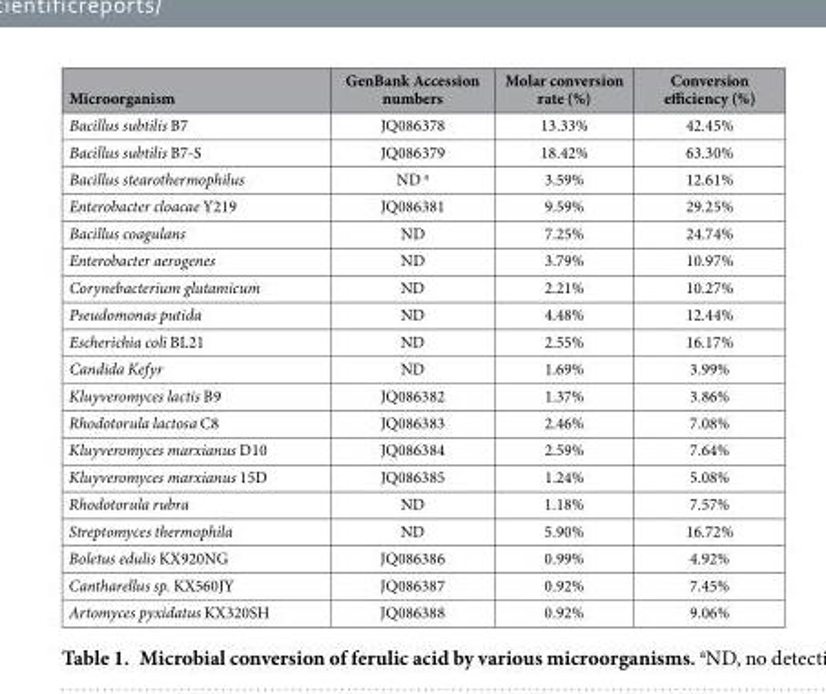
<table><thead><tr><td>Microorganism</td><td>GenBank Accession numbers</td><td>Molar conversion rate (%)</td><td>Conversion efficiency (%)</td></tr></thead><tbody><tr><td>Bacillus subtilis B7</td><td>JQ086378</td><td>13.33%</td><td>42.45%</td></tr><tr><td>Bacillus subtilis B7-S</td><td>JQ086379</td><td>18.42%</td><td>63.30%</td></tr><tr><td>Bacillus stearothermophilus</td><td>ND a</td><td>3.59%</td><td>12.61%</td></tr><tr><td>Enterobacter cloacae Y219</td><td>JQ086381</td><td>9.59%</td><td>29.25%</td></tr><tr><td>Bacillus coagulans</td><td>ND</td><td>7.25%</td><td>24.74%</td></tr><tr><td>Enterobacter aerogenes</td><td>ND</td><td>3.79%</td><td>10.97%</td></tr><tr><td>Corynebacterium glutamicum</td><td>ND</td><td>2.21%</td><td>10.27%</td></tr><tr><td>Pseudomonas putida</td><td>ND</td><td>4.48%</td><td>12.44%</td></tr><tr><td>Escherichia coli BL21</td><td>ND</td><td>2.55%</td><td>16.17%</td></tr><tr><td>Candida Kefyr</td><td>ND</td><td>1.69%</td><td>3.99%</td></tr><tr><td>Kluyveromyces lactis B9</td><td>JQ086382</td><td>1.37%</td><td>3.86%</td></tr><tr><td>Rhodotorula lactosa C8</td><td>JQ086383</td><td>2.46%</td><td>7.08%</td></tr><tr><td>Kluyveromyces marxianus D10</td><td>JQ086384</td><td>2.59%</td><td>7.64%</td></tr><tr><td>Kluyveromyces marxianus 15D</td><td>JQ086385</td><td>1.24%</td><td>5.08%</td></tr><tr><td>Rhodotorula rubra</td><td>ND</td><td>1.18%</td><td>7.57%</td></tr><tr><td>Streptomyces thermophila</td><td>ND</td><td>5.90%</td><td>16.72%</td></tr><tr><td>Boletus edulis KX920NG</td><td>JQ086386</td><td>0.99%</td><td>4.92%</td></tr><tr><td>Cantharellus sp. KX560JY</td><td>JQ086387</td><td>0.92%</td><td>7.45%</td></tr><tr><td>Artomyces pyxidatus KX320SH</td><td>JQ086388</td><td>0.92%</td><td>9.06%</td></tr></tbody></table>